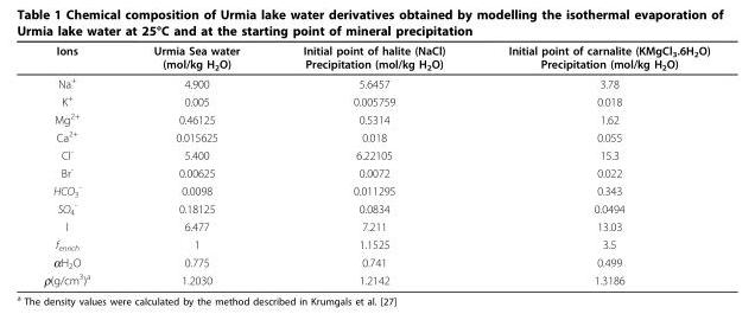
<table><thead><tr><td>Ions</td><td>Urmia Sea water (mol/kg H<sub>2</sub>O)</td><td>Initial point of halite (NaCl) Precipitation (mol/kg H<sub>2</sub>O)</td><td>Initial point of carnalite (KMgCl<sub>3</sub>.6H<sub>2</sub>O) Precipitation (mol/kg H<sub>2</sub>O)</td></tr></thead><tbody><tr><td>Na<sup>+</sup></td><td>4.900</td><td>5.6457</td><td>3.78</td></tr><tr><td>K<sup>+</sup></td><td>0.005</td><td>0.005759</td><td>0.018</td></tr><tr><td>Mg<sup>2+</sup></td><td>0.46125</td><td>0.5314</td><td>1.62</td></tr><tr><td>Ca<sup>2+</sup></td><td>0.015625</td><td>0.018</td><td>0.055</td></tr><tr><td>Cl<sup>-</sup></td><td>5.400</td><td>6.22105</td><td>15.3</td></tr><tr><td>Br<sup>-</sup></td><td>0.00625</td><td>0.0072</td><td>0.022</td></tr><tr><td>HCO<sub>3</sub> <sup>-</sup></td><td>0.0098</td><td>0.011295</td><td>0.343</td></tr><tr><td>SO<sub>4</sub> <sup>-</sup></td><td>0.18125</td><td>0.0834</td><td>0.0494</td></tr><tr><td>l</td><td>6.477</td><td>7.211</td><td>13.03</td></tr><tr><td>f<sub>enrich</sub></td><td>1</td><td>1.1525</td><td>3.5</td></tr><tr><td>αH<sub>2</sub>O</td><td>0.775</td><td>0.741</td><td>0.499</td></tr><tr><td>ρ(g/cm<sup>3</sup>)<sup>a</sup></td><td>1.2030</td><td>1.2142</td><td>1.3186</td></tr></tbody></table>